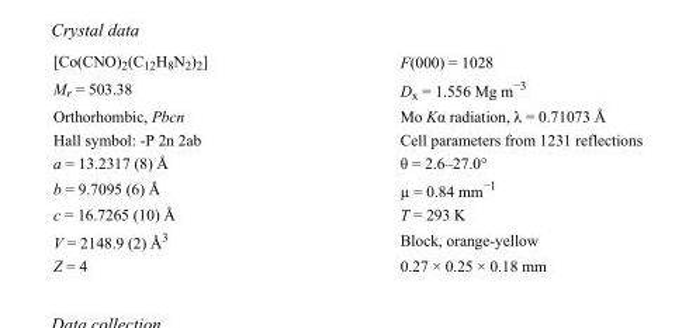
<table><tbody><tr><td>[Co(CNO)<sub>2</sub>(C<sub>12</sub>H<sub>8</sub>N<sub>2</sub>)<sub>2</sub>]</td><td>F(000) = 1028</td></tr><tr><td>M<sub>r</sub> = 503.38</td><td>D<sub>x</sub> = 1.556 Mg m<sup>−3</sup></td></tr><tr><td>Orthorhombic, Pbcn</td><td>Mo Kα radiation, λ = 0.71073 Å</td></tr><tr><td>Hall symbol: -P 2n 2ab</td><td>Cell parameters from 1231 reflections</td></tr><tr><td>a = 13.2317 (8) Å</td><td>θ = 2.6–27.0°</td></tr><tr><td>b = 9.7095 (6) Å</td><td>µ = 0.84 mm<sup>−1</sup></td></tr><tr><td>c = 16.7265 (10) Å</td><td>T = 293 K</td></tr><tr><td>V = 2148.9 (2) Å<sup>3</sup></td><td>Block, orange-yellow</td></tr><tr><td>Z = 4</td><td>0.27 × 0.25 × 0.18 mm</td></tr></tbody></table>